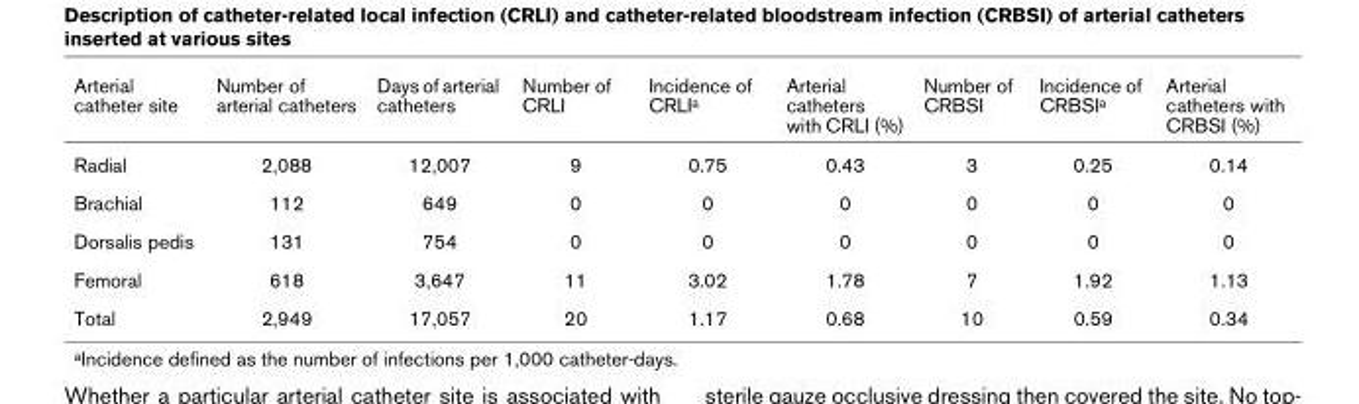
<table><thead><tr><td>Arterial catheter site</td><td>Number of arterial catheters</td><td>Days of arterial catheters</td><td>Number of CRLI</td><td>Incidence of CRLIa</td><td>Arterial catheters with CRLI (%)</td><td>Number of CRBSI</td><td>Incidence of CRBSIa</td><td>Arterial catheters with CRBSI (%)</td></tr></thead><tbody><tr><td>Radial</td><td>2,088</td><td>12,007</td><td>9</td><td>0.75</td><td>0.43</td><td>3</td><td>0.25</td><td>0.14</td></tr><tr><td>Brachial</td><td>112</td><td>649</td><td>0</td><td>0</td><td>0</td><td>0</td><td>0</td><td>0</td></tr><tr><td>Dorsalis pedis</td><td>131</td><td>754</td><td>0</td><td>0</td><td>0</td><td>0</td><td>0</td><td>0</td></tr><tr><td>Femoral</td><td>618</td><td>3,647</td><td>11</td><td>3.02</td><td>1.78</td><td>7</td><td>1.92</td><td>1.13</td></tr><tr><td>Total</td><td>2,949</td><td>17,057</td><td>20</td><td>1.17</td><td>0.68</td><td>10</td><td>0.59</td><td>0.34</td></tr></tbody></table>